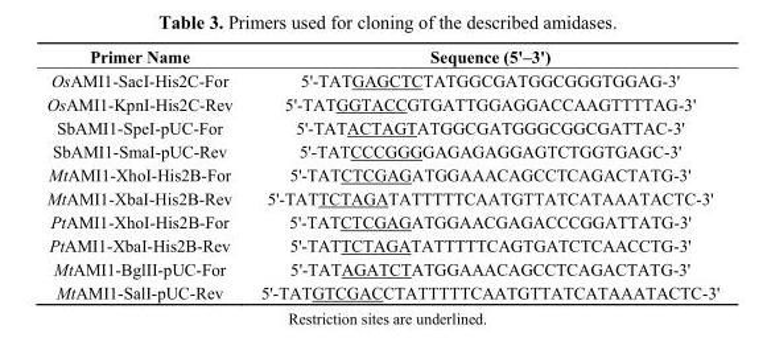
<table><thead><tr><td>Primer Name</td><td>Sequence (5&#x27;–3&#x27;)</td></tr></thead><tbody><tr><td>OsAMI1-SacI-His2C-For</td><td>5&#x27;-TATGAGCTCTATGGCGATGGCGGGTGGAG-3&#x27;</td></tr><tr><td>OsAMI1-KpnI-His2C-Rev</td><td>5&#x27;-TATGGTACCGTGATTGGAGGACCAAGTTTTAG-3&#x27;</td></tr><tr><td>SbAMI1-SpeI-pUC-For</td><td>5&#x27;-TATACTAGTATGGCGATGGGCGGCGATTAC-3&#x27;</td></tr><tr><td>SbAMI1-SmaI-pUC-Rev</td><td>5&#x27;-TATCCCGGGGAGAGAGGAGTCTGGTGAGC-3&#x27;</td></tr><tr><td>MtAMI1-XhoI-His2B-For</td><td>5&#x27;-TATCTCGAGATGGAAACAGCCTCAGACTATG-3&#x27;</td></tr><tr><td>MtAMI1-XbaI-His2B-Rev</td><td>5&#x27;-TATTCTAGATATTTTTCAATGTTATCATAAATACTC-3&#x27;</td></tr><tr><td>PtAMI1-XhoI-His2B-For</td><td>5&#x27;-TATCTCGAGATGGAACGAGACCCGGATTATG-3&#x27;</td></tr><tr><td>PtAMI1-XbaI-His2B-Rev</td><td>5&#x27;-TATTCTAGATATTTTTCAGTGATCTCAACCTG-3&#x27;</td></tr><tr><td>MtAMI1-BglII-pUC-For</td><td>5&#x27;-TATAGATCTATGGAAACAGCCTCAGACTATG-3&#x27;</td></tr><tr><td>MtAMI1-SalI-pUC-Rev</td><td>5&#x27;-TATGTCGACCTATTTTTCAATGTTATCATAAATACTC-3&#x27;</td></tr></tbody></table>